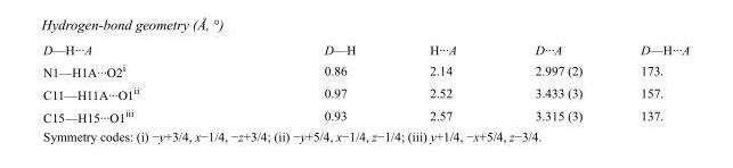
<table><tbody><tr><td>D—H···A</td><td>D—H</td><td>H···A</td><td>D···A</td><td>D—H···A</td></tr><tr><td>N1—H1A···O2<sup>i</sup></td><td>0.86</td><td>2.14</td><td>2.997 (2)</td><td>173.</td></tr><tr><td>C11—H11A···O1<sup>ii</sup></td><td>0.97</td><td>2.52</td><td>3.433 (3)</td><td>157.</td></tr><tr><td>C15—H15···O1<sup>iii</sup></td><td>0.93</td><td>2.57</td><td>3.315 (3)</td><td>137.</td></tr></tbody></table>